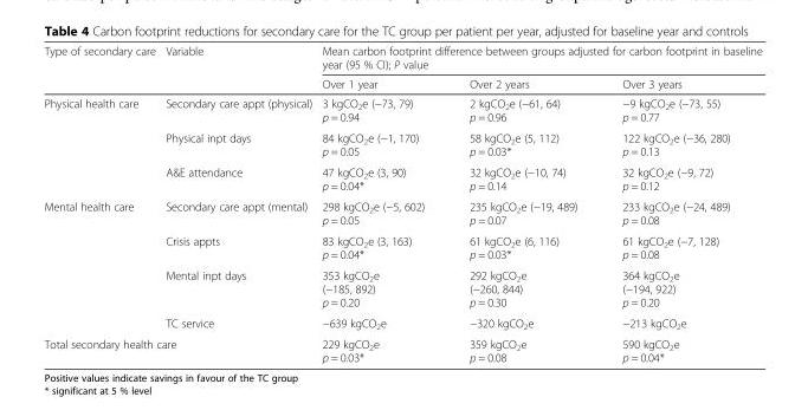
<table><thead><tr><td rowspan="2">Type of secondary care</td><td rowspan="2">Variable</td><td colspan="3">Mean carbon footprint difference between groups adjusted for carbon footprint in baseline year (95 % CI); P value</td></tr><tr><td>Over 1 year</td><td>Over 2 years</td><td>Over 3 years</td></tr></thead><tbody><tr><td rowspan="3">Physical health care</td><td>Secondary care appt (physical)</td><td>3 kgCO<sub>2</sub>e (−73, 79) p = 0.94</td><td>2 kgCO<sub>2</sub>e (−61, 64) p = 0.96</td><td>−9 kgCO<sub>2</sub>e (−73, 55) p = 0.77</td></tr><tr><td>Physical inpt days</td><td>84 kgCO<sub>2</sub>e (−1, 170) p = 0.05</td><td>58 kgCO<sub>2</sub>e (5, 112) p = 0.03*</td><td>122 kgCO<sub>2</sub>e (−36, 280) p = 0.13</td></tr><tr><td>A&amp;E attendance</td><td>47 kgCO<sub>2</sub>e (3, 90) p = 0.04*</td><td>32 kgCO<sub>2</sub>e (−10, 74) p = 0.14</td><td>32 kgCO<sub>2</sub>e (−9, 72) p = 0.12</td></tr><tr><td rowspan="4">Mental health care</td><td>Secondary care appt (mental)</td><td>298 kgCO<sub>2</sub>e (−5, 602) p = 0.05</td><td>235 kgCO<sub>2</sub>e (−19, 489) p = 0.07</td><td>233 kgCO<sub>2</sub>e (−24, 489) p = 0.08</td></tr><tr><td>Crisis appts</td><td>83 kgCO<sub>2</sub>e (3, 163) p = 0.04*</td><td>61 kgCO<sub>2</sub>e (6, 116) p = 0.03*</td><td>61 kgCO<sub>2</sub>e (−7, 128) p = 0.08</td></tr><tr><td>Mental inpt days</td><td>353 kgCO<sub>2</sub>e (−185, 892) p = 0.20</td><td>292 kgCO<sub>2</sub>e (−260, 844) p = 0.30</td><td>364 kgCO<sub>2</sub>e (−194, 922) p = 0.20</td></tr><tr><td>TC service</td><td>−639 kgCO<sub>2</sub>e</td><td>−320 kgCO<sub>2</sub>e</td><td>−213 kgCO<sub>2</sub>e</td></tr><tr><td colspan="2">Total secondary health care</td><td>229 kgCO<sub>2</sub>e p = 0.03*</td><td>359 kgCO<sub>2</sub>e p = 0.08</td><td>590 kgCO<sub>2</sub>e p = 0.04*</td></tr></tbody></table>